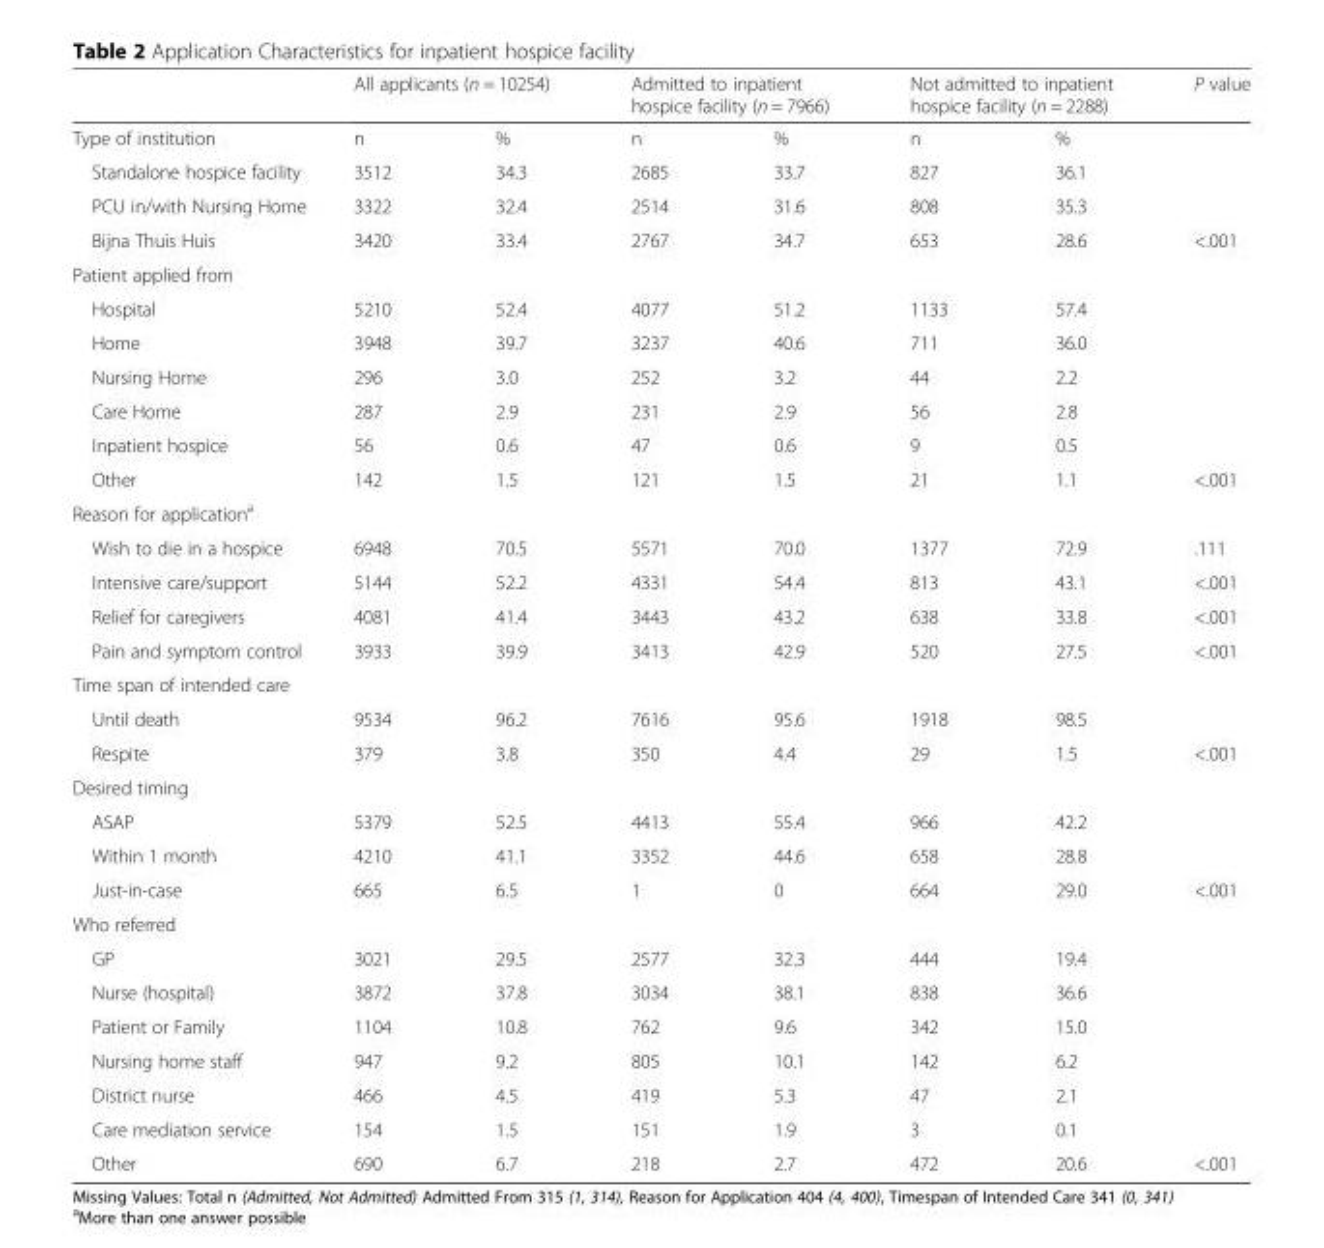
<table><thead><tr><td rowspan="2">Type of institution</td><td colspan="2">All applicants (n = 10254)</td><td colspan="2">Admitted to inpatient hospice facility (n = 7966)</td><td colspan="2">Not admitted to inpatient hospice facility (n = 2288)</td><td rowspan="2">P value</td></tr><tr><td>n</td><td>%</td><td>n</td><td>%</td><td>n</td><td>%</td></tr></thead><tbody><tr><td>Standalone hospice facility</td><td>3512</td><td>34.3</td><td>2685</td><td>33.7</td><td>827</td><td>36.1</td><td></td></tr><tr><td>PCU in/with Nursing Home</td><td>3322</td><td>32.4</td><td>2514</td><td>31.6</td><td>808</td><td>35.3</td><td></td></tr><tr><td>Bijna Thuis Huis</td><td>3420</td><td>33.4</td><td>2767</td><td>34.7</td><td>653</td><td>28.6</td><td>&lt;.001</td></tr><tr><td colspan="8">Patient applied from</td></tr><tr><td>Hospital</td><td>5210</td><td>52.4</td><td>4077</td><td>51.2</td><td>1133</td><td>57.4</td><td></td></tr><tr><td>Home</td><td>3948</td><td>39.7</td><td>3237</td><td>40.6</td><td>711</td><td>36.0</td><td></td></tr><tr><td>Nursing Home</td><td>296</td><td>3.0</td><td>252</td><td>3.2</td><td>44</td><td>2.2</td><td></td></tr><tr><td>Care Home</td><td>287</td><td>2.9</td><td>231</td><td>2.9</td><td>56</td><td>2.8</td><td></td></tr><tr><td>Inpatient hospice</td><td>56</td><td>0.6</td><td>47</td><td>0.6</td><td>9</td><td>0.5</td><td></td></tr><tr><td>Other</td><td>142</td><td>1.5</td><td>121</td><td>1.5</td><td>21</td><td>1.1</td><td>&lt;.001</td></tr><tr><td colspan="8">Reason for application<sup>a</sup></td></tr><tr><td>Wish to die in a hospice</td><td>6948</td><td>70.5</td><td>5571</td><td>70.0</td><td>1377</td><td>72.9</td><td>.111</td></tr><tr><td>Intensive care/support</td><td>5144</td><td>52.2</td><td>4331</td><td>54.4</td><td>813</td><td>43.1</td><td>&lt;.001</td></tr><tr><td>Relief for caregivers</td><td>4081</td><td>41.4</td><td>3443</td><td>43.2</td><td>638</td><td>33.8</td><td>&lt;.001</td></tr><tr><td>Pain and symptom control</td><td>3933</td><td>39.9</td><td>3413</td><td>42.9</td><td>520</td><td>27.5</td><td>&lt;.001</td></tr><tr><td colspan="8">Time span of intended care</td></tr><tr><td>Until death</td><td>9534</td><td>96.2</td><td>7616</td><td>95.6</td><td>1918</td><td>98.5</td><td></td></tr><tr><td>Respite</td><td>379</td><td>3.8</td><td>350</td><td>4.4</td><td>29</td><td>1.5</td><td>&lt;.001</td></tr><tr><td colspan="8">Desired timing</td></tr><tr><td>ASAP</td><td>5379</td><td>52.5</td><td>4413</td><td>55.4</td><td>966</td><td>42.2</td><td></td></tr><tr><td>Within 1 month</td><td>4210</td><td>41.1</td><td>3352</td><td>44.6</td><td>658</td><td>28.8</td><td></td></tr><tr><td>Just-in-case</td><td>665</td><td>6.5</td><td>1</td><td>0</td><td>664</td><td>29.0</td><td>&lt;.001</td></tr><tr><td colspan="8">Who referred</td></tr><tr><td>GP</td><td>3021</td><td>29.5</td><td>2577</td><td>32.3</td><td>444</td><td>19.4</td><td></td></tr><tr><td>Nurse (hospital)</td><td>3872</td><td>37.8</td><td>3034</td><td>38.1</td><td>838</td><td>36.6</td><td></td></tr><tr><td>Patient or Family</td><td>1104</td><td>10.8</td><td>762</td><td>9.6</td><td>342</td><td>15.0</td><td></td></tr><tr><td>Nursing home staff</td><td>947</td><td>9.2</td><td>805</td><td>10.1</td><td>142</td><td>6.2</td><td></td></tr><tr><td>District nurse</td><td>466</td><td>4.5</td><td>419</td><td>5.3</td><td>47</td><td>2.1</td><td></td></tr><tr><td>Care mediation service</td><td>154</td><td>1.5</td><td>151</td><td>1.9</td><td>3</td><td>0.1</td><td></td></tr><tr><td>Other</td><td>690</td><td>6.7</td><td>218</td><td>2.7</td><td>472</td><td>20.6</td><td>&lt;.001</td></tr></tbody></table>